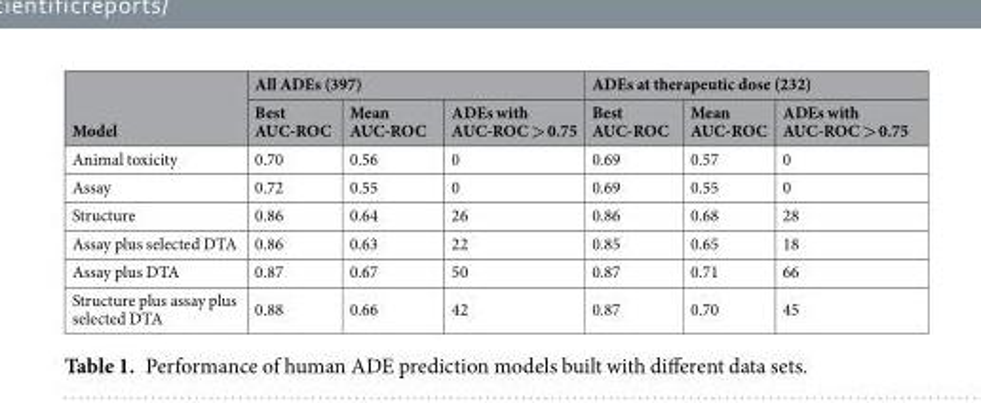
<table><thead><tr><td rowspan="2">Model</td><td colspan="3">All ADEs (397)</td><td colspan="3">ADEs at therapeutic dose (232)</td></tr><tr><td>Best AUC-ROC</td><td>Mean AUC-ROC</td><td>ADEs with AUC-ROC &gt; 0.75</td><td>Best AUC-ROC</td><td>Mean AUC-ROC</td><td>ADEs with AUC-ROC &gt; 0.75</td></tr></thead><tbody><tr><td>Animal toxicity</td><td>0.70</td><td>0.56</td><td>0</td><td>0.69</td><td>0.57</td><td>0</td></tr><tr><td>Assay</td><td>0.72</td><td>0.55</td><td>0</td><td>0.69</td><td>0.55</td><td>0</td></tr><tr><td>Structure</td><td>0.86</td><td>0.64</td><td>26</td><td>0.86</td><td>0.68</td><td>28</td></tr><tr><td>Assay plus selected DTA</td><td>0.86</td><td>0.63</td><td>22</td><td>0.85</td><td>0.65</td><td>18</td></tr><tr><td>Assay plus DTA</td><td>0.87</td><td>0.67</td><td>50</td><td>0.87</td><td>0.71</td><td>66</td></tr><tr><td>Structure plus assay plus selected DTA</td><td>0.88</td><td>0.66</td><td>42</td><td>0.87</td><td>0.70</td><td>45</td></tr></tbody></table>